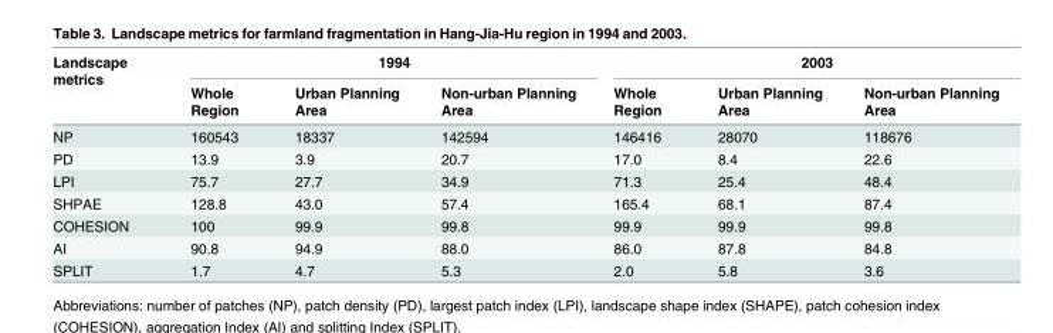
<table><thead><tr><td rowspan="2">Landscape metrics</td><td colspan="3">1994</td><td colspan="3">2003</td></tr><tr><td>Whole Region</td><td>Urban Planning Area</td><td>Non-urban Planning Area</td><td>Whole Region</td><td>Urban Planning Area</td><td>Non-urban Planning Area</td></tr></thead><tbody><tr><td>NP</td><td>160543</td><td>18337</td><td>142594</td><td>146416</td><td>28070</td><td>118676</td></tr><tr><td>PD</td><td>13.9</td><td>3.9</td><td>20.7</td><td>17.0</td><td>8.4</td><td>22.6</td></tr><tr><td>LPI</td><td>75.7</td><td>27.7</td><td>34.9</td><td>71.3</td><td>25.4</td><td>48.4</td></tr><tr><td>SHPAE</td><td>128.8</td><td>43.0</td><td>57.4</td><td>165.4</td><td>68.1</td><td>87.4</td></tr><tr><td>COHESION</td><td>100</td><td>99.9</td><td>99.8</td><td>99.9</td><td>99.9</td><td>99.8</td></tr><tr><td>AI</td><td>90.8</td><td>94.9</td><td>88.0</td><td>86.0</td><td>87.8</td><td>84.8</td></tr><tr><td>SPLIT</td><td>1.7</td><td>4.7</td><td>5.3</td><td>2.0</td><td>5.8</td><td>3.6</td></tr></tbody></table>